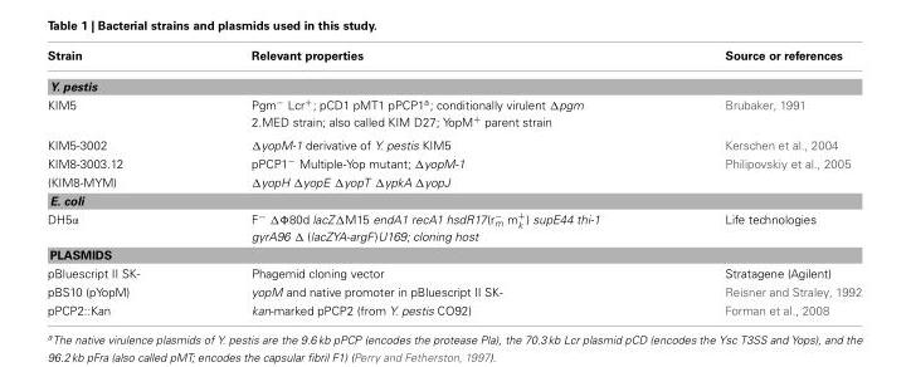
<table><thead><tr><td>Strain</td><td>Relevant properties</td><td>Source or references</td></tr></thead><tbody><tr><td colspan="3">Y. pestis</td></tr><tr><td>KIM5</td><td>Pgm<sup>−</sup> Lcr<sup>+</sup>; pCD1 pMT1 pPCP1<sup>a</sup>; conditionally virulent Δpgm 2.MED strain; also called KIM D27; YopM<sup>+</sup> parent strain</td><td>Brubaker, 1991</td></tr><tr><td>KIM5-3002</td><td>ΔyopM-1 derivative of Y. pestis KIM5</td><td>Kerschen et al., 2004</td></tr><tr><td>KIM8-3003.12</td><td>pPCP1<sup>−</sup> Multiple-Yop mutant; ΔyopM-1</td><td>Philipovskiy et al., 2005</td></tr><tr><td>(KIM8-MYM)</td><td>ΔyopH ΔyopE ΔyopT ΔypkA ΔyopJ</td><td></td></tr><tr><td colspan="3">E. coli</td></tr><tr><td>DH5α</td><td>F<sup>−</sup> ΔΦ80d lacZΔM15 endA1 recA1 hsdR17(r<sup>−</sup> <sub>m</sub> m<sup>+</sup> <sub>k</sub> ) supE44 thi-1 gyrA96 Δ (lacZYA-argF)U169; cloning host</td><td>Life technologies</td></tr><tr><td colspan="3">PLASMIDS</td></tr><tr><td>pBluescript II SK-</td><td>Phagemid cloning vector</td><td>Stratagene (Agilent)</td></tr><tr><td>pBS10 (pYopM)</td><td>yopM and native promoter in pBluescript II SK-</td><td>Reisner and Straley, 1992</td></tr><tr><td>pPCP2::Kan</td><td>kan-marked pPCP2 (from Y. pestis CO92)</td><td>Forman et al., 2008</td></tr></tbody></table>